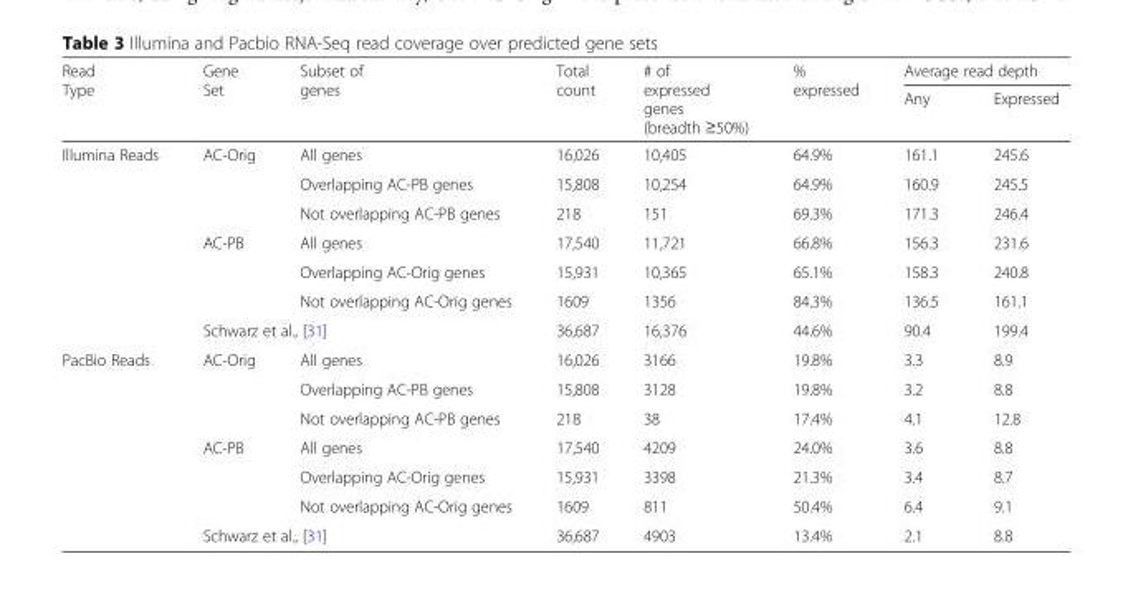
<table><thead><tr><td rowspan="2">Read Type</td><td rowspan="2">Gene Set</td><td rowspan="2">Subset of genes</td><td rowspan="2">Total count</td><td rowspan="2"># of expressed genes (breadth ≥50%)</td><td rowspan="2">% expressed</td><td colspan="2">Average read depth</td></tr><tr><td>Any</td><td>Expressed</td></tr></thead><tbody><tr><td rowspan="7">Illumina Reads</td><td rowspan="3">AC-Orig</td><td>All genes</td><td>16,026</td><td>10,405</td><td>64.9%</td><td>161.1</td><td>245.6</td></tr><tr><td>Overlapping AC-PB genes</td><td>15,808</td><td>10,254</td><td>64.9%</td><td>160.9</td><td>245.5</td></tr><tr><td>Not overlapping AC-PB genes</td><td>218</td><td>151</td><td>69.3%</td><td>171.3</td><td>246.4</td></tr><tr><td rowspan="3">AC-PB</td><td>All genes</td><td>17,540</td><td>11,721</td><td>66.8%</td><td>156.3</td><td>231.6</td></tr><tr><td>Overlapping AC-Orig genes</td><td>15,931</td><td>10,365</td><td>65.1%</td><td>158.3</td><td>240.8</td></tr><tr><td>Not overlapping AC-Orig genes</td><td>1609</td><td>1356</td><td>84.3%</td><td>136.5</td><td>161.1</td></tr><tr><td colspan="2">Schwarz et al., [31]</td><td>36,687</td><td>16,376</td><td>44.6%</td><td>90.4</td><td>199.4</td></tr><tr><td rowspan="7">PacBio Reads</td><td rowspan="3">AC-Orig</td><td>All genes</td><td>16,026</td><td>3166</td><td>19.8%</td><td>3.3</td><td>8.9</td></tr><tr><td>Overlapping AC-PB genes</td><td>15,808</td><td>3128</td><td>19.8%</td><td>3.2</td><td>8.8</td></tr><tr><td>Not overlapping AC-PB genes</td><td>218</td><td>38</td><td>17.4%</td><td>4.1</td><td>12.8</td></tr><tr><td rowspan="3">AC-PB</td><td>All genes</td><td>17,540</td><td>4209</td><td>24.0%</td><td>3.6</td><td>8.8</td></tr><tr><td>Overlapping AC-Orig genes</td><td>15,931</td><td>3398</td><td>21.3%</td><td>3.4</td><td>8.7</td></tr><tr><td>Not overlapping AC-Orig genes</td><td>1609</td><td>811</td><td>50.4%</td><td>6.4</td><td>9.1</td></tr><tr><td colspan="2">Schwarz et al., [31]</td><td>36,687</td><td>4903</td><td>13.4%</td><td>2.1</td><td>8.8</td></tr></tbody></table>